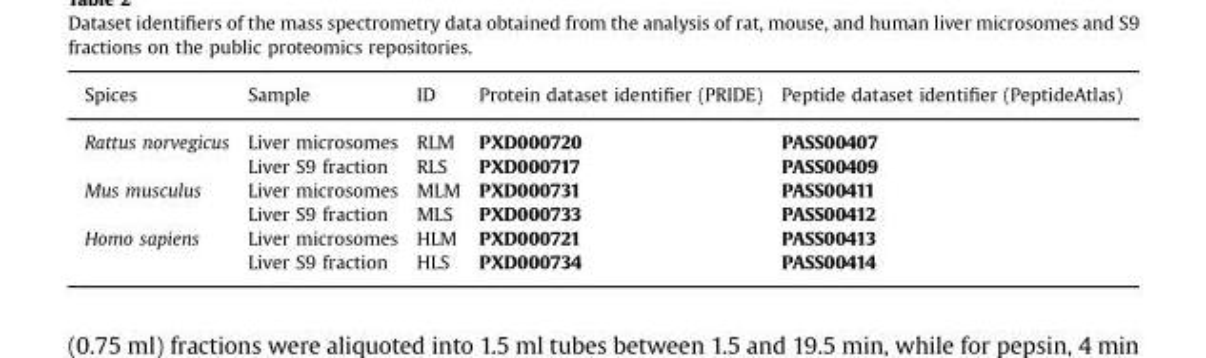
<table><thead><tr><td>Spices</td><td>Sample</td><td>ID</td><td>Protein dataset identifier (PRIDE)</td><td>Peptide dataset identifier (PeptideAtlas)</td></tr></thead><tbody><tr><td rowspan="2">Rattus norvegicus</td><td>Liver microsomes</td><td>RLM</td><td>PXD000720</td><td>PASS00407</td></tr><tr><td>Liver S9 fraction</td><td>RLS</td><td>PXD000717</td><td>PASS00409</td></tr><tr><td rowspan="2">Mus musculus</td><td>Liver microsomes</td><td>MLM</td><td>PXD000731</td><td>PASS00411</td></tr><tr><td>Liver S9 fraction</td><td>MLS</td><td>PXD000733</td><td>PASS00412</td></tr><tr><td rowspan="2">Homo sapiens</td><td>Liver microsomes</td><td>HLM</td><td>PXD000721</td><td>PASS00413</td></tr><tr><td>Liver S9 fraction</td><td>HLS</td><td>PXD000734</td><td>PASS00414</td></tr></tbody></table>